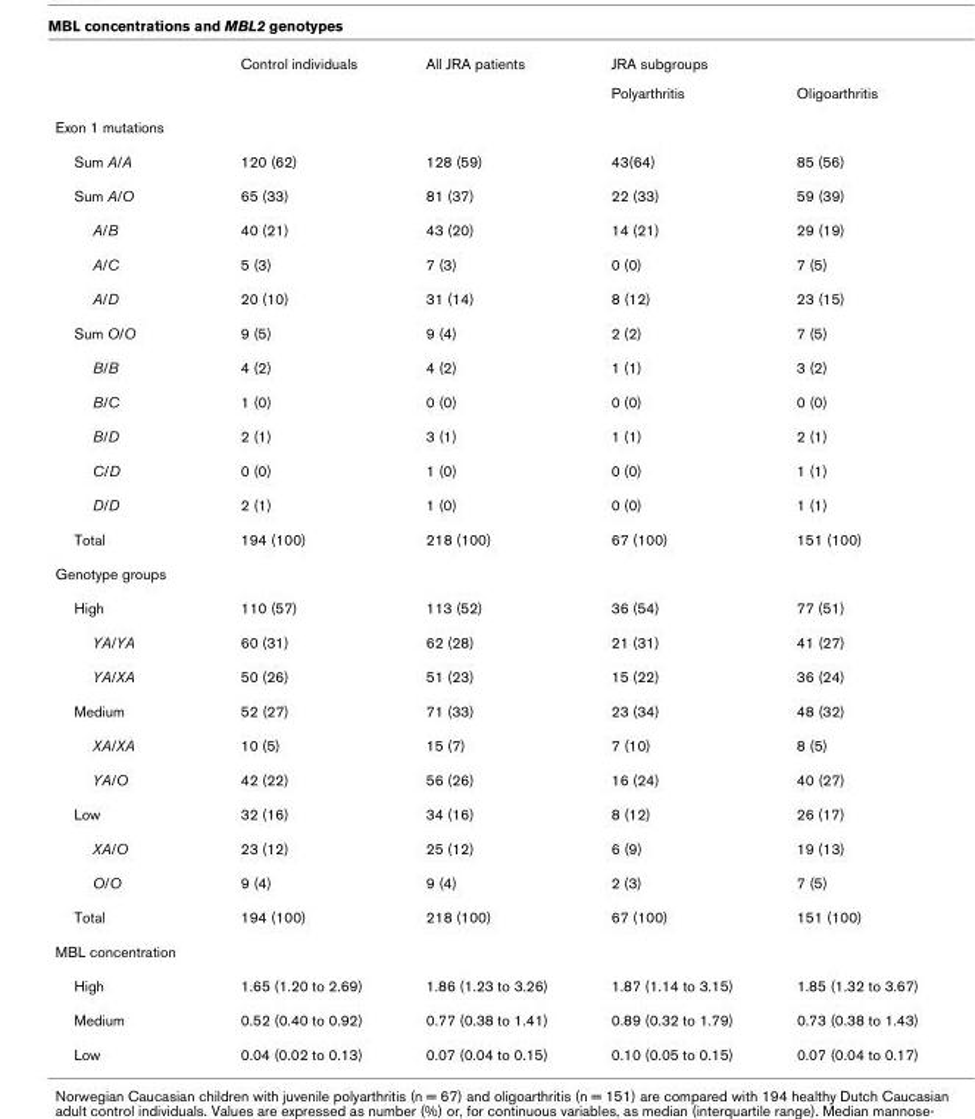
<table><thead><tr><td></td><td>Control individuals</td><td>All JRA patients</td><td>JRA subgroups</td><td></td></tr></thead><tbody><tr><td></td><td></td><td></td><td>Polyarthritis</td><td>Oligoarthritis</td></tr><tr><td colspan="5">Exon 1 mutations</td></tr><tr><td>Sum A/A</td><td>120 (62)</td><td>128 (59)</td><td>43(64)</td><td>85 (56)</td></tr><tr><td>Sum A/O</td><td>65 (33)</td><td>81 (37)</td><td>22 (33)</td><td>59 (39)</td></tr><tr><td>A/B</td><td>40 (21)</td><td>43 (20)</td><td>14 (21)</td><td>29 (19)</td></tr><tr><td>A/C</td><td>5 (3)</td><td>7 (3)</td><td>0 (0)</td><td>7 (5)</td></tr><tr><td>A/D</td><td>20 (10)</td><td>31 (14)</td><td>8 (12)</td><td>23 (15)</td></tr><tr><td>Sum O/O</td><td>9 (5)</td><td>9 (4)</td><td>2 (2)</td><td>7 (5)</td></tr><tr><td>B/B</td><td>4 (2)</td><td>4 (2)</td><td>1 (1)</td><td>3 (2)</td></tr><tr><td>B/C</td><td>1 (0)</td><td>0 (0)</td><td>0 (0)</td><td>0 (0)</td></tr><tr><td>B/D</td><td>2 (1)</td><td>3 (1)</td><td>1 (1)</td><td>2 (1)</td></tr><tr><td>C/D</td><td>0 (0)</td><td>1 (0)</td><td>0 (0)</td><td>1 (1)</td></tr><tr><td>D/D</td><td>2 (1)</td><td>1 (0)</td><td>0 (0)</td><td>1 (1)</td></tr><tr><td>Total</td><td>194 (100)</td><td>218 (100)</td><td>67 (100)</td><td>151 (100)</td></tr><tr><td colspan="5">Genotype groups</td></tr><tr><td>High</td><td>110 (57)</td><td>113 (52)</td><td>36 (54)</td><td>77 (51)</td></tr><tr><td>YA/YA</td><td>60 (31)</td><td>62 (28)</td><td>21 (31)</td><td>41 (27)</td></tr><tr><td>YA/XA</td><td>50 (26)</td><td>51 (23)</td><td>15 (22)</td><td>36 (24)</td></tr><tr><td>Medium</td><td>52 (27)</td><td>71 (33)</td><td>23 (34)</td><td>48 (32)</td></tr><tr><td>XA/XA</td><td>10 (5)</td><td>15 (7)</td><td>7 (10)</td><td>8 (5)</td></tr><tr><td>YA/O</td><td>42 (22)</td><td>56 (26)</td><td>16 (24)</td><td>40 (27)</td></tr><tr><td>Low</td><td>32 (16)</td><td>34 (16)</td><td>8 (12)</td><td>26 (17)</td></tr><tr><td>XA/O</td><td>23 (12)</td><td>25 (12)</td><td>6 (9)</td><td>19 (13)</td></tr><tr><td>O/O</td><td>9 (4)</td><td>9 (4)</td><td>2 (3)</td><td>7 (5)</td></tr><tr><td>Total</td><td>194 (100)</td><td>218 (100)</td><td>67 (100)</td><td>151 (100)</td></tr><tr><td colspan="5">MBL concentration</td></tr><tr><td>High</td><td>1.65 (1.20 to 2.69)</td><td>1.86 (1.23 to 3.26)</td><td>1.87 (1.14 to 3.15)</td><td>1.85 (1.32 to 3.67)</td></tr><tr><td>Medium</td><td>0.52 (0.40 to 0.92)</td><td>0.77 (0.38 to 1.41)</td><td>0.89 (0.32 to 1.79)</td><td>0.73 (0.38 to 1.43)</td></tr><tr><td>Low</td><td>0.04 (0.02 to 0.13)</td><td>0.07 (0.04 to 0.15)</td><td>0.10 (0.05 to 0.15)</td><td>0.07 (0.04 to 0.17)</td></tr></tbody></table>